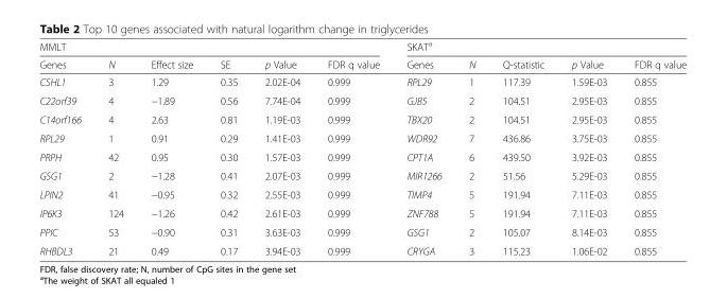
<table><thead><tr><td colspan="6">MMLT</td><td colspan="5">SKAT<sup>a</sup></td></tr><tr><td>Genes</td><td>N</td><td>Effect size</td><td>SE</td><td>p Value</td><td>FDR q value</td><td>Genes</td><td>N</td><td>Q-statistic</td><td>p Value</td><td>FDR q value</td></tr></thead><tbody><tr><td>CSHL1</td><td>3</td><td>1.29</td><td>0.35</td><td>2.02E-04</td><td>0.999</td><td>RPL29</td><td>1</td><td>117.39</td><td>1.59E-03</td><td>0.855</td></tr><tr><td>C22orf39</td><td>4</td><td>−1.89</td><td>0.56</td><td>7.74E-04</td><td>0.999</td><td>GJB5</td><td>2</td><td>104.51</td><td>2.95E-03</td><td>0.855</td></tr><tr><td>C14orf166</td><td>4</td><td>2.63</td><td>0.81</td><td>1.19E-03</td><td>0.999</td><td>TBX20</td><td>2</td><td>104.51</td><td>2.95E-03</td><td>0.855</td></tr><tr><td>RPL29</td><td>1</td><td>0.91</td><td>0.29</td><td>1.41E-03</td><td>0.999</td><td>WDR92</td><td>7</td><td>436.86</td><td>3.75E-03</td><td>0.855</td></tr><tr><td>PRPH</td><td>42</td><td>0.95</td><td>0.30</td><td>1.57E-03</td><td>0.999</td><td>CPT1A</td><td>6</td><td>439.50</td><td>3.92E-03</td><td>0.855</td></tr><tr><td>GSG1</td><td>2</td><td>−1.28</td><td>0.41</td><td>2.07E-03</td><td>0.999</td><td>MIR1266</td><td>2</td><td>51.56</td><td>5.29E-03</td><td>0.855</td></tr><tr><td>LPIN2</td><td>41</td><td>−0.95</td><td>0.32</td><td>2.55E-03</td><td>0.999</td><td>TIMP4</td><td>5</td><td>191.94</td><td>7.11E-03</td><td>0.855</td></tr><tr><td>IP6K3</td><td>124</td><td>−1.26</td><td>0.42</td><td>2.61E-03</td><td>0.999</td><td>ZNF788</td><td>5</td><td>191.94</td><td>7.11E-03</td><td>0.855</td></tr><tr><td>PPIC</td><td>53</td><td>−0.90</td><td>0.31</td><td>3.63E-03</td><td>0.999</td><td>GSG1</td><td>2</td><td>105.07</td><td>8.14E-03</td><td>0.855</td></tr><tr><td>RHBDL3</td><td>21</td><td>0.49</td><td>0.17</td><td>3.94E-03</td><td>0.999</td><td>CRYGA</td><td>3</td><td>115.23</td><td>1.06E-02</td><td>0.855</td></tr></tbody></table>